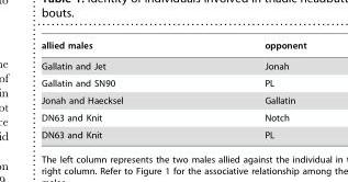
<table><thead><tr><td>allied males</td><td>opponent</td></tr></thead><tbody><tr><td>Gallatin and Jet</td><td>Jonah</td></tr><tr><td>Gallatin and SN90</td><td>PL</td></tr><tr><td>Jonah and Haecksel</td><td>Gallatin</td></tr><tr><td>DN63 and Knit</td><td>Notch</td></tr><tr><td>DN63 and Knit</td><td>PL</td></tr></tbody></table>